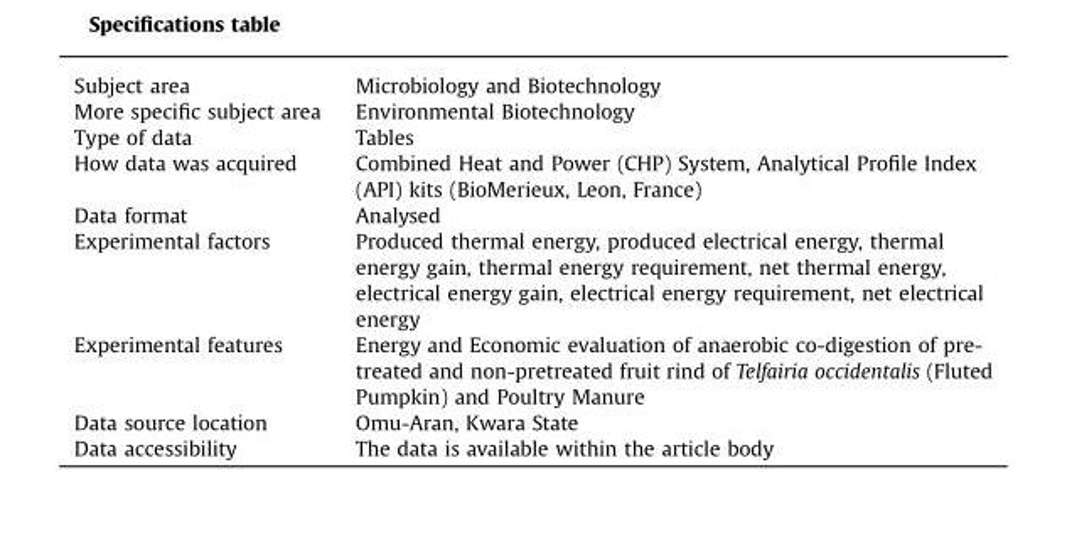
<table><tbody><tr><td>Subject area</td><td>Microbiology and Biotechnology</td></tr><tr><td>More specific subject area</td><td>Environmental Biotechnology</td></tr><tr><td>Type of data</td><td>Tables</td></tr><tr><td>How data was acquired</td><td>Combined Heat and Power (CHP) System, Analytical Profile Index (API) kits (BioMerieux, Leon, France)</td></tr><tr><td>Data format</td><td>Analysed</td></tr><tr><td>Experimental factors</td><td>Produced thermal energy, produced electrical energy, thermal energy gain, thermal energy requirement, net thermal energy, electrical energy gain, electrical energy requirement, net electrical energy</td></tr><tr><td>Experimental features</td><td>Energy and Economic evaluation of anaerobic co-digestion of pre- treated and non-pretreated fruit rind of Telfairia occidentalis (Fluted Pumpkin) and Poultry Manure</td></tr><tr><td>Data source location</td><td>Omu-Aran, Kwara State</td></tr><tr><td>Data accessibility</td><td>The data is available within the article body</td></tr></tbody></table>